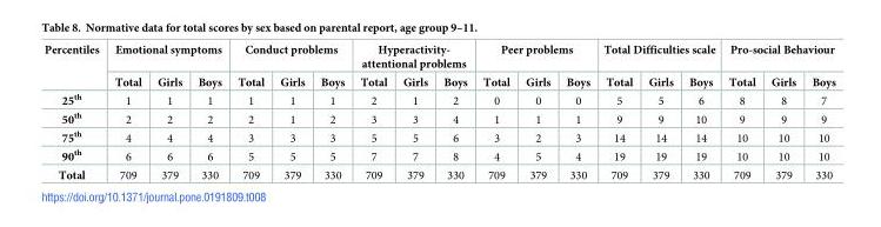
<table><thead><tr><td rowspan="2">Percentiles</td><td colspan="3">Emotional symptoms</td><td colspan="3">Conduct problems</td><td colspan="3">Hyperactivity- attentional problems</td><td colspan="3">Peer problems</td><td colspan="3">Total Difficulties scale</td><td colspan="3">Pro-social Behaviour</td></tr><tr><td>Total</td><td>Girls</td><td>Boys</td><td>Total</td><td>Girls</td><td>Boys</td><td>Total</td><td>Girls</td><td>Boys</td><td>Total</td><td>Girls</td><td>Boys</td><td>Total</td><td>Girls</td><td>Boys</td><td>Total</td><td>Girls</td><td>Boys</td></tr></thead><tbody><tr><td>25<sup>th</sup></td><td>1</td><td>1</td><td>1</td><td>1</td><td>1</td><td>1</td><td>2</td><td>1</td><td>2</td><td>0</td><td>0</td><td>0</td><td>5</td><td>5</td><td>6</td><td>8</td><td>8</td><td>7</td></tr><tr><td>50<sup>th</sup></td><td>2</td><td>2</td><td>2</td><td>2</td><td>1</td><td>2</td><td>3</td><td>3</td><td>4</td><td>1</td><td>1</td><td>1</td><td>9</td><td>9</td><td>10</td><td>9</td><td>9</td><td>9</td></tr><tr><td>75<sup>th</sup></td><td>4</td><td>4</td><td>4</td><td>3</td><td>3</td><td>3</td><td>5</td><td>5</td><td>6</td><td>3</td><td>2</td><td>3</td><td>14</td><td>14</td><td>14</td><td>10</td><td>10</td><td>10</td></tr><tr><td>90<sup>th</sup></td><td>6</td><td>6</td><td>6</td><td>5</td><td>5</td><td>5</td><td>7</td><td>7</td><td>8</td><td>4</td><td>5</td><td>4</td><td>19</td><td>19</td><td>19</td><td>10</td><td>10</td><td>10</td></tr><tr><td>Total</td><td>709</td><td>379</td><td>330</td><td>709</td><td>379</td><td>330</td><td>709</td><td>379</td><td>330</td><td>709</td><td>379</td><td>330</td><td>709</td><td>379</td><td>330</td><td>709</td><td>379</td><td>330</td></tr></tbody></table>